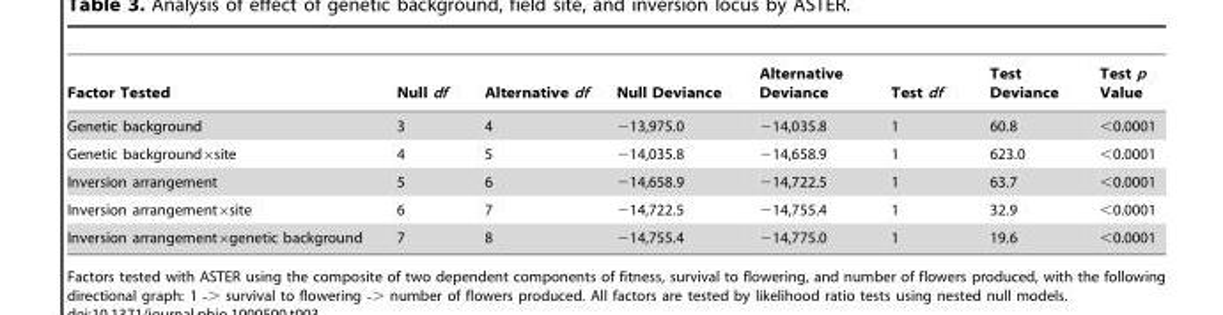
<table><thead><tr><td>Factor Tested</td><td>Null df</td><td>Alternative df</td><td>Null Deviance</td><td>Alternative Deviance</td><td>Test df</td><td>Test Deviance</td><td>Test p Value</td></tr></thead><tbody><tr><td>Genetic background</td><td>3</td><td>4</td><td>−13,975.0</td><td>−14,035.8</td><td>1</td><td>60.8</td><td>&lt;0.0001</td></tr><tr><td>Genetic background×site</td><td>4</td><td>5</td><td>−14,035.8</td><td>−14,658.9</td><td>1</td><td>623.0</td><td>&lt;0.0001</td></tr><tr><td>Inversion arrangement</td><td>5</td><td>6</td><td>−14,658.9</td><td>−14,722.5</td><td>1</td><td>63.7</td><td>&lt;0.0001</td></tr><tr><td>Inversion arrangement×site</td><td>6</td><td>7</td><td>−14,722.5</td><td>−14,755.4</td><td>1</td><td>32.9</td><td>&lt;0.0001</td></tr><tr><td>Inversion arrangement×genetic background</td><td>7</td><td>8</td><td>−14,755.4</td><td>−14,775.0</td><td>1</td><td>19.6</td><td>&lt;0.0001</td></tr></tbody></table>